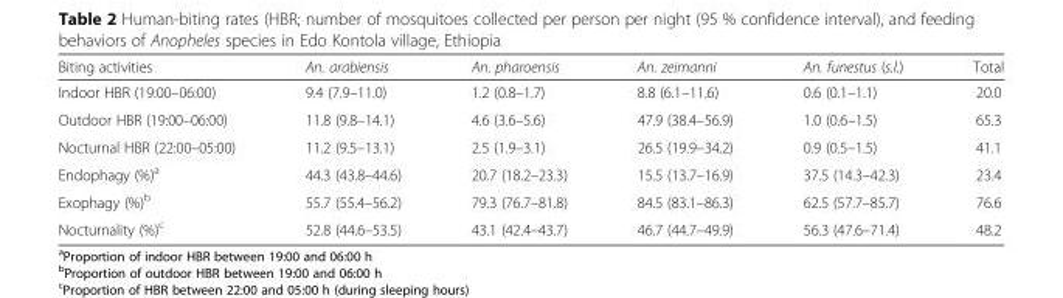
<table><thead><tr><td>Biting activities</td><td>An. arabiensis</td><td>An. pharoensis</td><td>An. zeimanni</td><td>An. funestus (s.l.)</td><td>Total</td></tr></thead><tbody><tr><td>Indoor HBR (19:00–06:00)</td><td>9.4 (7.9–11.0)</td><td>1.2 (0.8–1.7)</td><td>8.8 (6.1–11.6)</td><td>0.6 (0.1–1.1)</td><td>20.0</td></tr><tr><td>Outdoor HBR (19:00–06:00)</td><td>11.8 (9.8–14.1)</td><td>4.6 (3.6–5.6)</td><td>47.9 (38.4–56.9)</td><td>1.0 (0.6–1.5)</td><td>65.3</td></tr><tr><td>Nocturnal HBR (22:00–05:00)</td><td>11.2 (9.5–13.1)</td><td>2.5 (1.9–3.1)</td><td>26.5 (19.9–34.2)</td><td>0.9 (0.5–1.5)</td><td>41.1</td></tr><tr><td>Endophagy (%)<sup>a</sup></td><td>44.3 (43.8–44.6)</td><td>20.7 (18.2–23.3)</td><td>15.5 (13.7–16.9)</td><td>37.5 (14.3–42.3)</td><td>23.4</td></tr><tr><td>Exophagy (%)<sup>b</sup></td><td>55.7 (55.4–56.2)</td><td>79.3 (76.7–81.8)</td><td>84.5 (83.1–86.3)</td><td>62.5 (57.7–85.7)</td><td>76.6</td></tr><tr><td>Nocturnality (%)<sup>c</sup></td><td>52.8 (44.6–53.5)</td><td>43.1 (42.4–43.7)</td><td>46.7 (44.7–49.9)</td><td>56.3 (47.6–71.4)</td><td>48.2</td></tr></tbody></table>